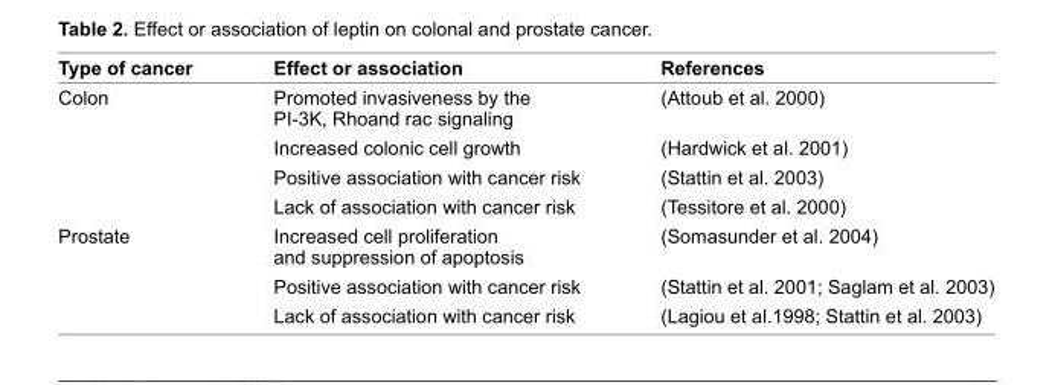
<table><thead><tr><td>Type of cancer</td><td>Effect or association</td><td>References</td></tr></thead><tbody><tr><td rowspan="4">Colon</td><td>Promoted invasiveness by the PI-3K, Rhoand rac signaling</td><td>(Attoub et al. 2000)</td></tr><tr><td>Increased colonic cell growth</td><td>(Hardwick et al. 2001)</td></tr><tr><td>Positive association with cancer risk</td><td>(Stattin et al. 2003)</td></tr><tr><td>Lack of association with cancer risk</td><td>(Tessitore et al. 2000)</td></tr><tr><td rowspan="3">Prostate</td><td>Increased cell proliferation and suppression of apoptosis</td><td>(Somasunder et al. 2004)</td></tr><tr><td>Positive association with cancer risk</td><td>(Stattin et al. 2001; Saglam et al. 2003)</td></tr><tr><td>Lack of association with cancer risk</td><td>(Lagiou et al.1998; Stattin et al. 2003)</td></tr></tbody></table>